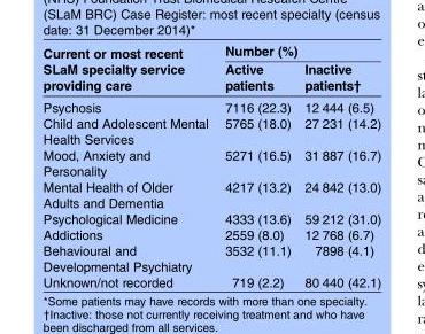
<table><thead><tr><td rowspan="2">Current or most recent SLaM specialty service providing care</td><td colspan="2">Number (%)</td></tr><tr><td>Active patients</td><td>Inactive patients†</td></tr></thead><tbody><tr><td>Psychosis</td><td>7116 (22.3)</td><td>12 444 (6.5)</td></tr><tr><td>Child and Adolescent Mental Health Services</td><td>5765 (18.0)</td><td>27 231 (14.2)</td></tr><tr><td>Mood, Anxiety and Personality</td><td>5271 (16.5)</td><td>31 887 (16.7)</td></tr><tr><td>Mental Health of Older Adults and Dementia</td><td>4217 (13.2)</td><td>24 842 (13.0)</td></tr><tr><td>Psychological Medicine</td><td>4333 (13.6)</td><td>59 212 (31.0)</td></tr><tr><td>Addictions</td><td>2559 (8.0)</td><td>12 768 (6.7)</td></tr><tr><td>Behavioural and Developmental Psychiatry</td><td>3532 (11.1)</td><td>7898 (4.1)</td></tr><tr><td>Unknown/not recorded</td><td>719 (2.2)</td><td>80 440 (42.1)</td></tr></tbody></table>